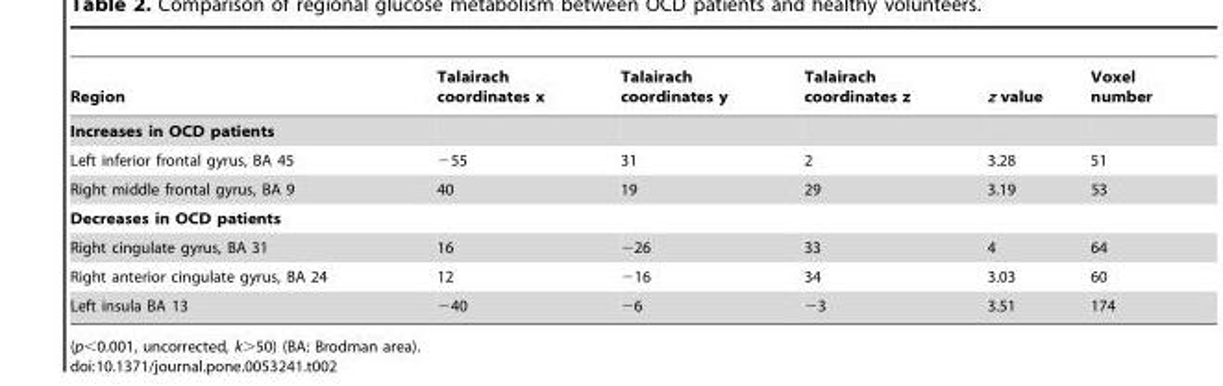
<table><thead><tr><td>Region</td><td>Talairach coordinates x</td><td>Talairach coordinates y</td><td>Talairach coordinates z</td><td>z value</td><td>Voxel number</td></tr></thead><tbody><tr><td colspan="6">Increases in OCD patients</td></tr><tr><td>Left inferior frontal gyrus, BA 45</td><td>−55</td><td>31</td><td>2</td><td>3.28</td><td>51</td></tr><tr><td>Right middle frontal gyrus, BA 9</td><td>40</td><td>19</td><td>29</td><td>3.19</td><td>53</td></tr><tr><td colspan="6">Decreases in OCD patients</td></tr><tr><td>Right cingulate gyrus, BA 31</td><td>16</td><td>−26</td><td>33</td><td>4</td><td>64</td></tr><tr><td>Right anterior cingulate gyrus, BA 24</td><td>12</td><td>−16</td><td>34</td><td>3.03</td><td>60</td></tr><tr><td>Left insula BA 13</td><td>−40</td><td>−6</td><td>−3</td><td>3.51</td><td>174</td></tr></tbody></table>